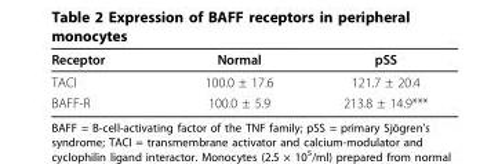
<table><thead><tr><td>Receptor</td><td>Normal</td><td>pSS</td></tr></thead><tbody><tr><td>TACI</td><td>100.0 ± 17.6</td><td>121.7 ± 20.4</td></tr><tr><td>BAFF-R</td><td>100.0 ± 5.9</td><td>213.8 ± 14.9***</td></tr></tbody></table>